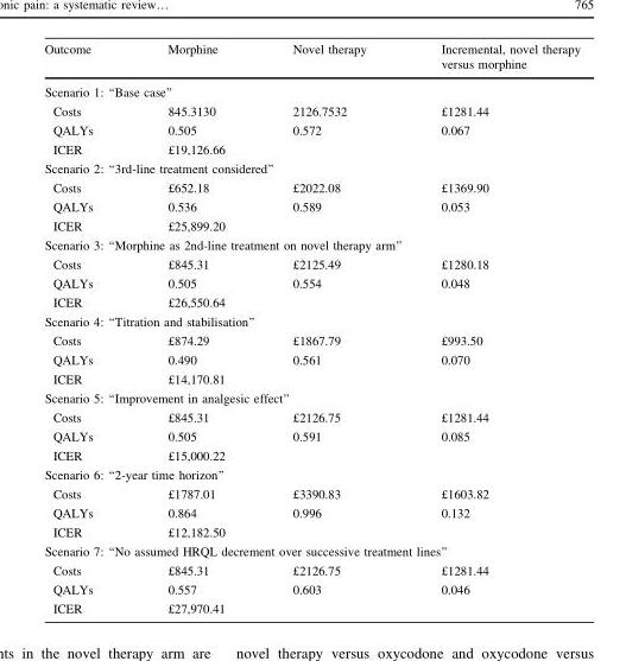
<table><thead><tr><td>Outcome</td><td>Morphine</td><td>Novel therapy</td><td>Incremental, novel therapy versus morphine</td></tr></thead><tbody><tr><td colspan="4">Scenario 1: ‘‘Base case’’</td></tr><tr><td>Costs</td><td>845.3130</td><td>2126.7532</td><td>£1281.44</td></tr><tr><td>QALYs</td><td>0.505</td><td>0.572</td><td>0.067</td></tr><tr><td>ICER</td><td colspan="3">£19,126.66</td></tr><tr><td colspan="4">Scenario 2: ‘‘3rd-line treatment considered’’</td></tr><tr><td>Costs</td><td>£652.18</td><td>£2022.08</td><td>£1369.90</td></tr><tr><td>QALYs</td><td>0.536</td><td>0.589</td><td>0.053</td></tr><tr><td>ICER</td><td colspan="3">£25,899.20</td></tr><tr><td colspan="4">Scenario 3: ‘‘Morphine as 2nd-line treatment on novel therapy arm’’</td></tr><tr><td>Costs</td><td>£845.31</td><td>£2125.49</td><td>£1280.18</td></tr><tr><td>QALYs</td><td>0.505</td><td>0.554</td><td>0.048</td></tr><tr><td>ICER</td><td colspan="3">£26,550.64</td></tr><tr><td colspan="4">Scenario 4: ‘‘Titration and stabilisation’’</td></tr><tr><td>Costs</td><td>£874.29</td><td>£1867.79</td><td>£993.50</td></tr><tr><td>QALYs</td><td>0.490</td><td>0.561</td><td>0.070</td></tr><tr><td>ICER</td><td colspan="3">£14,170.81</td></tr><tr><td colspan="4">Scenario 5: ‘‘Improvement in analgesic effect’’</td></tr><tr><td>Costs</td><td>£845.31</td><td>£2126.75</td><td>£1281.44</td></tr><tr><td>QALYs</td><td>0.505</td><td>0.591</td><td>0.085</td></tr><tr><td>ICER</td><td colspan="3">£15,000.22</td></tr><tr><td colspan="4">Scenario 6: ‘‘2-year time horizon’’</td></tr><tr><td>Costs</td><td>£1787.01</td><td>£3390.83</td><td>£1603.82</td></tr><tr><td>QALYs</td><td>0.864</td><td>0.996</td><td>0.132</td></tr><tr><td>ICER</td><td colspan="3">£12,182.50</td></tr><tr><td colspan="4">Scenario 7: ‘‘No assumed HRQL decrement over successive treatment lines’’</td></tr><tr><td>Costs</td><td>£845.31</td><td>£2126.75</td><td>£1281.44</td></tr><tr><td>QALYs</td><td>0.557</td><td>0.603</td><td>0.046</td></tr><tr><td>ICER</td><td colspan="3">£27,970.41</td></tr></tbody></table>